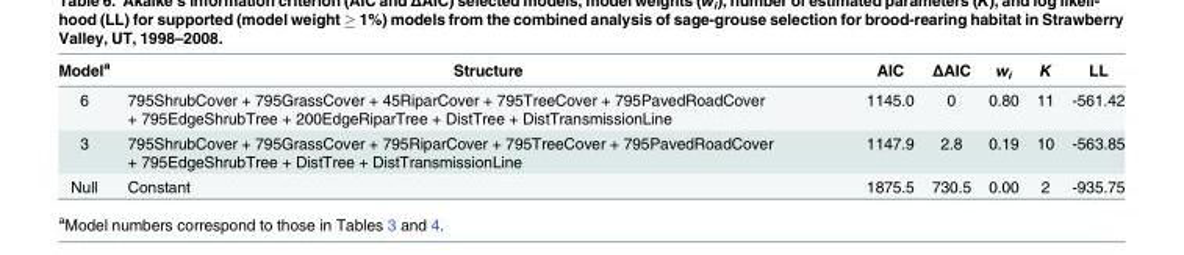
<table><thead><tr><td>Model<sup>a</sup></td><td>Structure</td><td>AIC</td><td>ΔAIC</td><td>w<sub>i</sub></td><td>K</td><td>LL</td></tr></thead><tbody><tr><td>6</td><td>795ShrubCover + 795GrassCover + 45RiparCover + 795TreeCover + 795PavedRoadCover + 795EdgeShrubTree + 200EdgeRiparTree + DistTree + DistTransmissionLine</td><td>1145.0</td><td>0</td><td>0.80</td><td>11</td><td>-561.42</td></tr><tr><td>3</td><td>795ShrubCover + 795GrassCover + 795RiparCover + 795TreeCover + 795PavedRoadCover + 795EdgeShrubTree + DistTree + DistTransmissionLine</td><td>1147.9</td><td>2.8</td><td>0.19</td><td>10</td><td>-563.85</td></tr><tr><td>Null</td><td>Constant</td><td>1875.5</td><td>730.5</td><td>0.00</td><td>2</td><td>-935.75</td></tr></tbody></table>